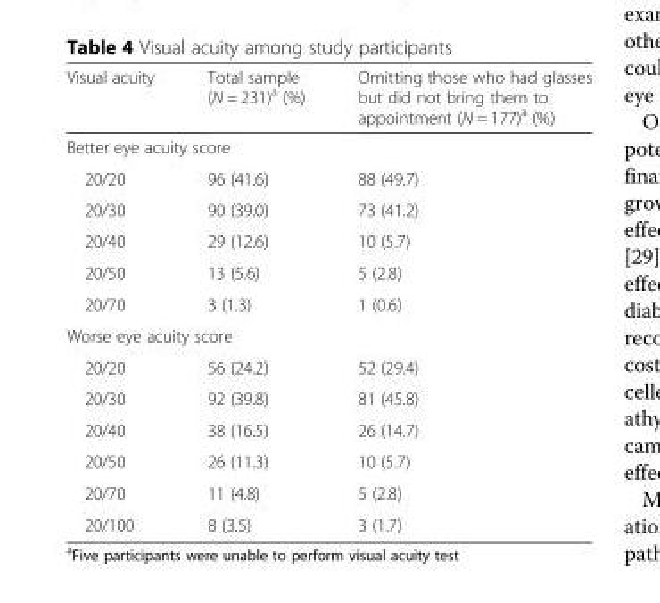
<table><thead><tr><td>Visual acuity</td><td>Total sample (N = 231)<sup>a</sup> (%)</td><td>Omitting those who had glasses but did not bring them to appointment (N = 177)<sup>a</sup> (%)</td></tr></thead><tbody><tr><td colspan="3">Better eye acuity score</td></tr><tr><td>20/20</td><td>96 (41.6)</td><td>88 (49.7)</td></tr><tr><td>20/30</td><td>90 (39.0)</td><td>73 (41.2)</td></tr><tr><td>20/40</td><td>29 (12.6)</td><td>10 (5.7)</td></tr><tr><td>20/50</td><td>13 (5.6)</td><td>5 (2.8)</td></tr><tr><td>20/70</td><td>3 (1.3)</td><td>1 (0.6)</td></tr><tr><td colspan="3">Worse eye acuity score</td></tr><tr><td>20/20</td><td>56 (24.2)</td><td>52 (29.4)</td></tr><tr><td>20/30</td><td>92 (39.8)</td><td>81 (45.8)</td></tr><tr><td>20/40</td><td>38 (16.5)</td><td>26 (14.7)</td></tr><tr><td>20/50</td><td>26 (11.3)</td><td>10 (5.7)</td></tr><tr><td>20/70</td><td>11 (4.8)</td><td>5 (2.8)</td></tr><tr><td>20/100</td><td>8 (3.5)</td><td>3 (1.7)</td></tr></tbody></table>